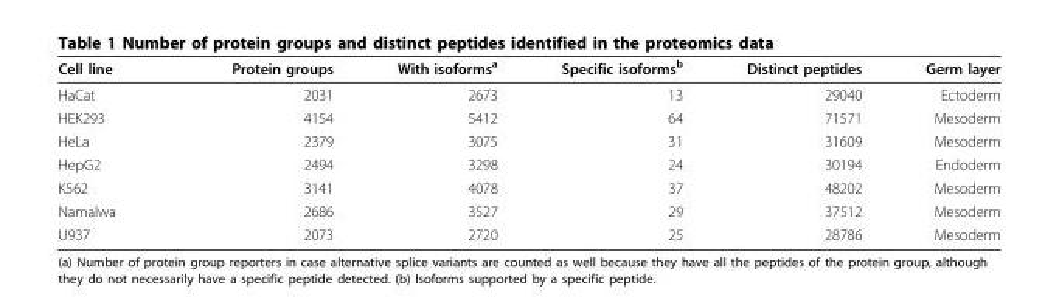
<table><thead><tr><td>Cell line</td><td>Protein groups</td><td>With isoforms<sup>a</sup></td><td>Specific isoforms<sup>b</sup></td><td>Distinct peptides</td><td>Germ layer</td></tr></thead><tbody><tr><td>HaCat</td><td>2031</td><td>2673</td><td>13</td><td>29040</td><td>Ectoderm</td></tr><tr><td>HEK293</td><td>4154</td><td>5412</td><td>64</td><td>71571</td><td>Mesoderm</td></tr><tr><td>HeLa</td><td>2379</td><td>3075</td><td>31</td><td>31609</td><td>Mesoderm</td></tr><tr><td>HepG2</td><td>2494</td><td>3298</td><td>24</td><td>30194</td><td>Endoderm</td></tr><tr><td>K562</td><td>3141</td><td>4078</td><td>37</td><td>48202</td><td>Mesoderm</td></tr><tr><td>Namalwa</td><td>2686</td><td>3527</td><td>29</td><td>37512</td><td>Mesoderm</td></tr><tr><td>U937</td><td>2073</td><td>2720</td><td>25</td><td>28786</td><td>Mesoderm</td></tr></tbody></table>